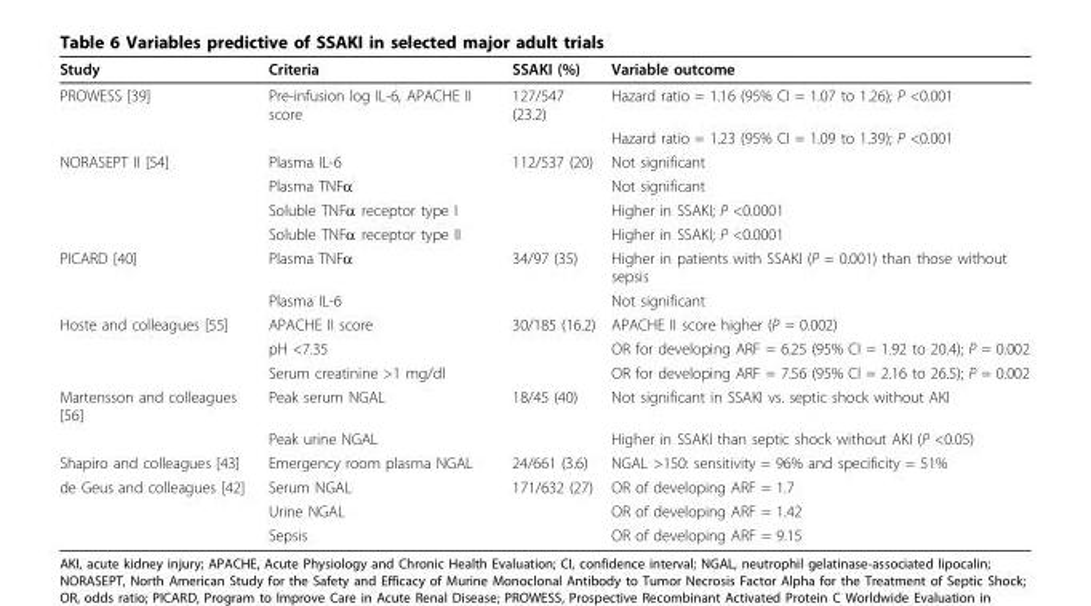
<table><thead><tr><td>Study</td><td>Criteria</td><td>SSAKI (%)</td><td>Variable outcome</td></tr></thead><tbody><tr><td rowspan="2">PROWESS [39]</td><td>Pre-infusion log IL-6, APACHE II score</td><td>127/547 (23.2)</td><td>Hazard ratio = 1.16 (95% CI = 1.07 to 1.26); P &lt;0.001</td></tr><tr><td></td><td></td><td>Hazard ratio = 1.23 (95% CI = 1.09 to 1.39); P &lt;0.001</td></tr><tr><td rowspan="4">NORASEPT II [54]</td><td>Plasma IL-6</td><td>112/537 (20)</td><td>Not significant</td></tr><tr><td>Plasma TNFα</td><td></td><td>Not significant</td></tr><tr><td>Soluble TNFα receptor type I</td><td></td><td>Higher in SSAKI; P &lt;0.0001</td></tr><tr><td>Soluble TNFα receptor type II</td><td></td><td>Higher in SSAKI; P &lt;0.0001</td></tr><tr><td rowspan="2">PICARD [40]</td><td>Plasma TNFα</td><td>34/97 (35)</td><td>Higher in patients with SSAKI (P = 0.001) than those without sepsis</td></tr><tr><td>Plasma IL-6</td><td></td><td>Not significant</td></tr><tr><td rowspan="3">Hoste and colleagues [55]</td><td>APACHE II score</td><td>30/185 (16.2)</td><td>APACHE II score higher (P = 0.002)</td></tr><tr><td>pH &lt;7.35</td><td></td><td>OR for developing ARF = 6.25 (95% CI = 1.92 to 20.4); P = 0.002</td></tr><tr><td>Serum creatinine &gt;1 mg/dl</td><td></td><td>OR for developing ARF = 7.56 (95% CI = 2.16 to 26.5); P = 0.002</td></tr><tr><td rowspan="2">Martensson and colleagues [56]</td><td>Peak serum NGAL</td><td>18/45 (40)</td><td>Not significant in SSAKI vs. septic shock without AKI</td></tr><tr><td>Peak urine NGAL</td><td></td><td>Higher in SSAKI than septic shock without AKI (P &lt;0.05)</td></tr><tr><td>Shapiro and colleagues [43]</td><td>Emergency room plasma NGAL</td><td>24/661 (3.6)</td><td>NGAL &gt;150: sensitivity = 96% and specificity = 51%</td></tr><tr><td rowspan="3">de Geus and colleagues [42]</td><td>Serum NGAL</td><td>171/632 (27)</td><td>OR of developing ARF = 1.7</td></tr><tr><td>Urine NGAL</td><td></td><td>OR of developing ARF = 1.42</td></tr><tr><td>Sepsis</td><td></td><td>OR of developing ARF = 9.15</td></tr></tbody></table>